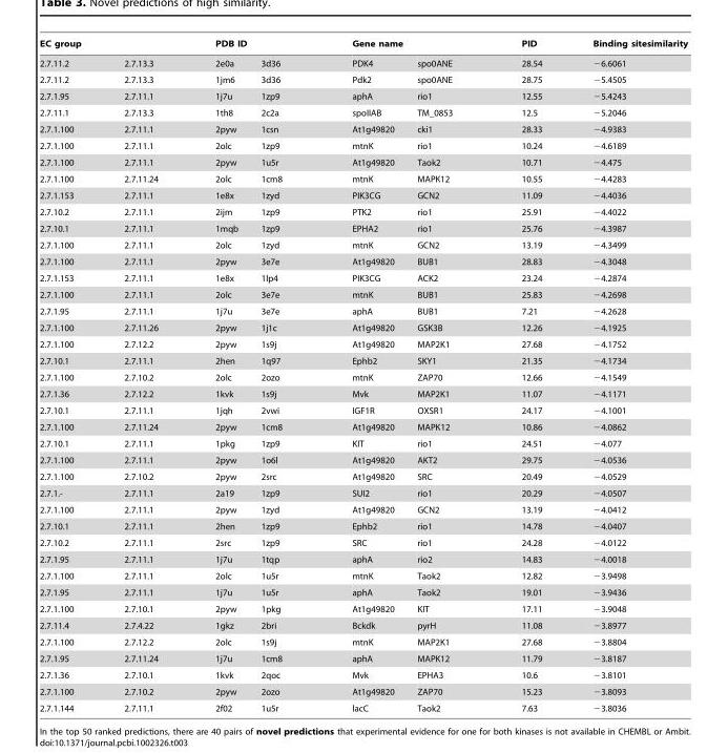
<table><thead><tr><td colspan="2">EC group</td><td colspan="2">PDB ID</td><td colspan="2">Gene name</td><td rowspan="2">PID 28.54</td><td rowspan="2">Binding sitesimilarity −6.6061</td></tr><tr><td>2.7.11.2</td><td>2.7.13.3</td><td>2e0a</td><td>3d36</td><td>PDK4</td><td>spo0ANE</td></tr></thead><tbody><tr><td>2.7.11.2</td><td>2.7.13.3</td><td>1jm6</td><td>3d36</td><td>Pdk2</td><td>spo0ANE</td><td>28.75</td><td>−5.4505</td></tr><tr><td>2.7.1.95</td><td>2.7.11.1</td><td>1j7u</td><td>1zp9</td><td>aphA</td><td>rio1</td><td>12.55</td><td>−5.4243</td></tr><tr><td>2.7.11.1</td><td>2.7.13.3</td><td>1th8</td><td>2c2a</td><td>spoIIAB</td><td>TM_0853</td><td>12.5</td><td>−5.2046</td></tr><tr><td>2.7.1.100</td><td>2.7.11.1</td><td>2pyw</td><td>1csn</td><td>At1g49820</td><td>cki1</td><td>28.33</td><td>−4.9383</td></tr><tr><td>2.7.1.100</td><td>2.7.11.1</td><td>2olc</td><td>1zp9</td><td>mtnK</td><td>rio1</td><td>10.24</td><td>−4.6189</td></tr><tr><td>2.7.1.100</td><td>2.7.11.1</td><td>2pyw</td><td>1u5r</td><td>At1g49820</td><td>Taok2</td><td>10.71</td><td>−4.475</td></tr><tr><td>2.7.1.100</td><td>2.7.11.24</td><td>2olc</td><td>1cm8</td><td>mtnK</td><td>MAPK12</td><td>10.55</td><td>−4.4283</td></tr><tr><td>2.7.1.153</td><td>2.7.11.1</td><td>1e8x</td><td>1zyd</td><td>PIK3CG</td><td>GCN2</td><td>11.09</td><td>−4.4036</td></tr><tr><td>2.7.10.2</td><td>2.7.11.1</td><td>2ijm</td><td>1zp9</td><td>PTK2</td><td>rio1</td><td>25.91</td><td>−4.4022</td></tr><tr><td>2.7.10.1</td><td>2.7.11.1</td><td>1mqb</td><td>1zp9</td><td>EPHA2</td><td>rio1</td><td>25.76</td><td>−4.3987</td></tr><tr><td>2.7.1.100</td><td>2.7.11.1</td><td>2olc</td><td>1zyd</td><td>mtnK</td><td>GCN2</td><td>13.19</td><td>−4.3499</td></tr><tr><td>2.7.1.100</td><td>2.7.11.1</td><td>2pyw</td><td>3e7e</td><td>At1g49820</td><td>BUB1</td><td>28.83</td><td>−4.3048</td></tr><tr><td>2.7.1.153</td><td>2.7.11.1</td><td>1e8x</td><td>1lp4</td><td>PIK3CG</td><td>ACK2</td><td>23.24</td><td>−4.2874</td></tr><tr><td>2.7.1.100</td><td>2.7.11.1</td><td>2olc</td><td>3e7e</td><td>mtnK</td><td>BUB1</td><td>25.83</td><td>−4.2698</td></tr><tr><td>2.7.1.95</td><td>2.7.11.1</td><td>1j7u</td><td>3e7e</td><td>aphA</td><td>BUB1</td><td>7.21</td><td>−4.2628</td></tr><tr><td>2.7.1.100</td><td>2.7.11.26</td><td>2pyw</td><td>1j1c</td><td>At1g49820</td><td>GSK3B</td><td>12.26</td><td>−4.1925</td></tr><tr><td>2.7.1.100</td><td>2.7.12.2</td><td>2pyw</td><td>1s9j</td><td>At1g49820</td><td>MAP2K1</td><td>27.68</td><td>−4.1752</td></tr><tr><td>2.7.10.1</td><td>2.7.11.1</td><td>2hen</td><td>1q97</td><td>Ephb2</td><td>SKY1</td><td>21.35</td><td>−4.1734</td></tr><tr><td>2.7.1.100</td><td>2.7.10.2</td><td>2olc</td><td>2ozo</td><td>mtnK</td><td>ZAP70</td><td>12.66</td><td>−4.1549</td></tr><tr><td>2.7.1.36</td><td>2.7.12.2</td><td>1kvk</td><td>1s9j</td><td>Mvk</td><td>MAP2K1</td><td>11.07</td><td>−4.1171</td></tr><tr><td>2.7.10.1</td><td>2.7.11.1</td><td>1jqh</td><td>2vwi</td><td>IGF1R</td><td>OXSR1</td><td>24.17</td><td>−4.1001</td></tr><tr><td>2.7.1.100</td><td>2.7.11.24</td><td>2pyw</td><td>1cm8</td><td>At1g49820</td><td>MAPK12</td><td>10.86</td><td>−4.0862</td></tr><tr><td>2.7.10.1</td><td>2.7.11.1</td><td>1pkg</td><td>1zp9</td><td>KIT</td><td>rio1</td><td>24.51</td><td>−4.077</td></tr><tr><td>2.7.1.100</td><td>2.7.11.1</td><td>2pyw</td><td>1o6l</td><td>At1g49820</td><td>AKT2</td><td>29.75</td><td>−4.0536</td></tr><tr><td>2.7.1.100</td><td>2.7.10.2</td><td>2pyw</td><td>2src</td><td>At1g49820</td><td>SRC</td><td>20.49</td><td>−4.0529</td></tr><tr><td>2.7.1.-</td><td>2.7.11.1</td><td>2a19</td><td>1zp9</td><td>SUI2</td><td>rio1</td><td>20.29</td><td>−4.0507</td></tr><tr><td>2.7.1.100</td><td>2.7.11.1</td><td>2pyw</td><td>1zyd</td><td>At1g49820</td><td>GCN2</td><td>13.19</td><td>−4.0412</td></tr><tr><td>2.7.10.1</td><td>2.7.11.1</td><td>2hen</td><td>1zp9</td><td>Ephb2</td><td>rio1</td><td>14.78</td><td>−4.0407</td></tr><tr><td>2.7.10.2</td><td>2.7.11.1</td><td>2src</td><td>1zp9</td><td>SRC</td><td>rio1</td><td>24.28</td><td>−4.0122</td></tr><tr><td>2.7.1.95</td><td>2.7.11.1</td><td>1j7u</td><td>1tqp</td><td>aphA</td><td>rio2</td><td>14.83</td><td>−4.0018</td></tr><tr><td>2.7.1.100</td><td>2.7.11.1</td><td>2olc</td><td>1u5r</td><td>mtnK</td><td>Taok2</td><td>12.82</td><td>−3.9498</td></tr><tr><td>2.7.1.95</td><td>2.7.11.1</td><td>1j7u</td><td>1u5r</td><td>aphA</td><td>Taok2</td><td>19.01</td><td>−3.9436</td></tr><tr><td>2.7.1.100</td><td>2.7.10.1</td><td>2pyw</td><td>1pkg</td><td>At1g49820</td><td>KIT</td><td>17.11</td><td>−3.9048</td></tr><tr><td>2.7.11.4</td><td>2.7.4.22</td><td>1gkz</td><td>2bri</td><td>Bckdk</td><td>pyrH</td><td>11.08</td><td>−3.8977</td></tr><tr><td>2.7.1.100</td><td>2.7.12.2</td><td>2olc</td><td>1s9j</td><td>mtnK</td><td>MAP2K1</td><td>27.68</td><td>−3.8804</td></tr><tr><td>2.7.1.95</td><td>2.7.11.24</td><td>1j7u</td><td>1cm8</td><td>aphA</td><td>MAPK12</td><td>11.79</td><td>−3.8187</td></tr><tr><td>2.7.1.36</td><td>2.7.10.1</td><td>1kvk</td><td>2qoc</td><td>Mvk</td><td>EPHA3</td><td>10.6</td><td>−3.8101</td></tr><tr><td>2.7.1.100</td><td>2.7.10.2</td><td>2pyw</td><td>2ozo</td><td>At1g49820</td><td>ZAP70</td><td>15.23</td><td>−3.8093</td></tr><tr><td>2.7.1.144</td><td>2.7.11.1</td><td>2f02</td><td>1u5r</td><td>lacC</td><td>Taok2</td><td>7.63</td><td>−3.8036</td></tr></tbody></table>